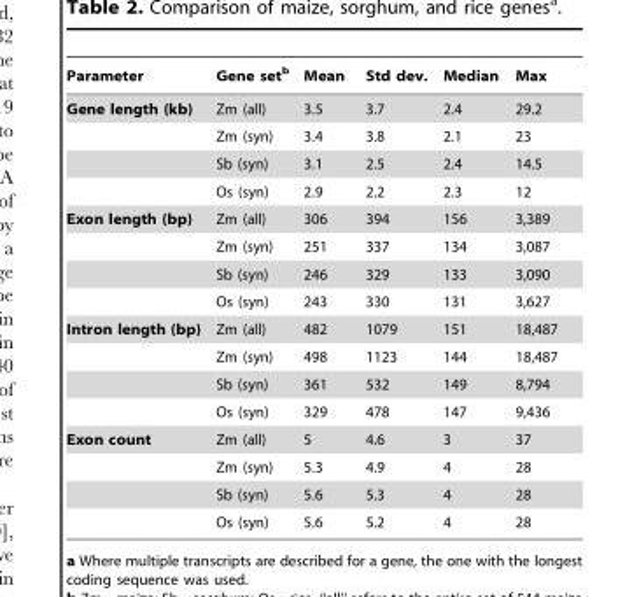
<table><thead><tr><td>Parameter</td><td>Gene set<sup>b</sup></td><td>Mean</td><td>Std dev.</td><td>Median</td><td>Max</td></tr></thead><tbody><tr><td rowspan="4">Gene length (kb)</td><td>Zm (all)</td><td>3.5</td><td>3.7</td><td>2.4</td><td>29.2</td></tr><tr><td>Zm (syn)</td><td>3.4</td><td>3.8</td><td>2.1</td><td>23</td></tr><tr><td>Sb (syn)</td><td>3.1</td><td>2.5</td><td>2.4</td><td>14.5</td></tr><tr><td>Os (syn)</td><td>2.9</td><td>2.2</td><td>2.3</td><td>12</td></tr><tr><td rowspan="4">Exon length (bp)</td><td>Zm (all)</td><td>306</td><td>394</td><td>156</td><td>3,389</td></tr><tr><td>Zm (syn)</td><td>251</td><td>337</td><td>134</td><td>3,087</td></tr><tr><td>Sb (syn)</td><td>246</td><td>329</td><td>133</td><td>3,090</td></tr><tr><td>Os (syn)</td><td>243</td><td>330</td><td>131</td><td>3,627</td></tr><tr><td rowspan="4">Intron length (bp)</td><td>Zm (all)</td><td>482</td><td>1079</td><td>151</td><td>18,487</td></tr><tr><td>Zm (syn)</td><td>498</td><td>1123</td><td>144</td><td>18,487</td></tr><tr><td>Sb (syn)</td><td>361</td><td>532</td><td>149</td><td>8,794</td></tr><tr><td>Os (syn)</td><td>329</td><td>478</td><td>147</td><td>9,436</td></tr><tr><td rowspan="4">Exon count</td><td>Zm (all)</td><td>5</td><td>4.6</td><td>3</td><td>37</td></tr><tr><td>Zm (syn)</td><td>5.3</td><td>4.9</td><td>4</td><td>28</td></tr><tr><td>Sb (syn)</td><td>5.6</td><td>5.3</td><td>4</td><td>28</td></tr><tr><td>Os (syn)</td><td>5.6</td><td>5.2</td><td>4</td><td>28</td></tr></tbody></table>